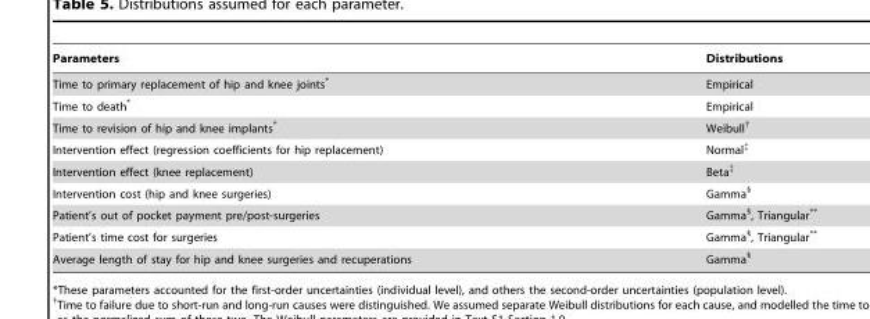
<table><thead><tr><td>Parameters</td><td>Distributions</td></tr></thead><tbody><tr><td>Time to primary replacement of hip and knee joints*</td><td>Empirical</td></tr><tr><td>Time to death*</td><td>Empirical</td></tr><tr><td>Time to revision of hip and knee implants*</td><td>Weibull†</td></tr><tr><td>Intervention effect (regression coefficients for hip replacement)</td><td>Normal‡</td></tr><tr><td>Intervention effect (knee replacement)</td><td>Beta‡</td></tr><tr><td>Intervention cost (hip and knee surgeries)</td><td>Gamma§</td></tr><tr><td>Patient’s out of pocket payment pre/post-surgeries</td><td>Gamma§, Triangular**</td></tr><tr><td>Patient’s time cost for surgeries</td><td>Gamma§, Triangular**</td></tr><tr><td>Average length of stay for hip and knee surgeries and recuperations</td><td>Gamma§</td></tr></tbody></table>